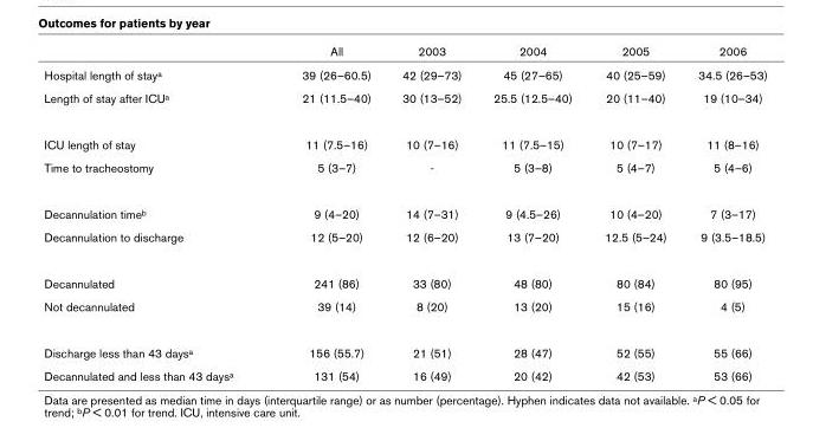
<table><thead><tr><td></td><td>All</td><td>2003</td><td>2004</td><td>2005</td><td>2006</td></tr></thead><tbody><tr><td>Hospital length of stay<sup>a</sup></td><td>39 (26–60.5)</td><td>42 (29–73)</td><td>45 (27–65)</td><td>40 (25–59)</td><td>34.5 (26–53)</td></tr><tr><td>Length of stay after ICU<sup>a</sup></td><td>21 (11.5–40)</td><td>30 (13–52)</td><td>25.5 (12.5–40)</td><td>20 (11–40)</td><td>19 (10–34)</td></tr><tr><td>ICU length of stay</td><td>11 (7.5–16)</td><td>10 (7–16)</td><td>11 (7.5–15)</td><td>10 (7–17)</td><td>11 (8–16)</td></tr><tr><td>Time to tracheostomy</td><td>5 (3–7)</td><td>-</td><td>5 (3–8)</td><td>5 (4–7)</td><td>5 (4–6)</td></tr><tr><td>Decannulation time<sup>b</sup></td><td>9 (4–20)</td><td>14 (7–31)</td><td>9 (4.5–26)</td><td>10 (4–20)</td><td>7 (3–17)</td></tr><tr><td>Decannulation to discharge</td><td>12 (5–20)</td><td>12 (6–20)</td><td>13 (7–20)</td><td>12.5 (5–24)</td><td>9 (3.5–18.5)</td></tr><tr><td>Decannulated</td><td>241 (86)</td><td>33 (80)</td><td>48 (80)</td><td>80 (84)</td><td>80 (95)</td></tr><tr><td>Not decannulated</td><td>39 (14)</td><td>8 (20)</td><td>13 (20)</td><td>15 (16)</td><td>4 (5)</td></tr><tr><td>Discharge less than 43 days<sup>a</sup></td><td>156 (55.7)</td><td>21 (51)</td><td>28 (47)</td><td>52 (55)</td><td>55 (66)</td></tr><tr><td>Decannulated and less than 43 days<sup>a</sup></td><td>131 (54)</td><td>16 (49)</td><td>20 (42)</td><td>42 (53)</td><td>53 (66)</td></tr></tbody></table>